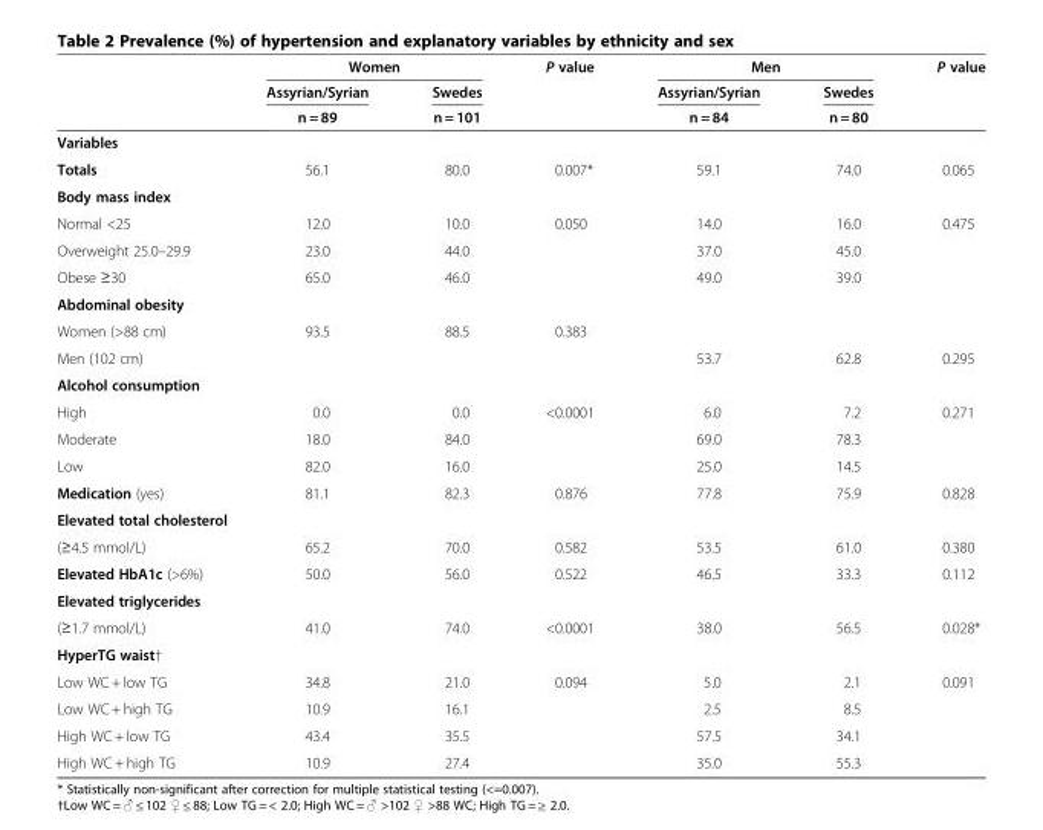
<table><thead><tr><td rowspan="3"></td><td colspan="2">Women</td><td rowspan="3">P value</td><td colspan="2">Men</td><td rowspan="3">P value</td></tr><tr><td rowspan="2">Assyrian/Syrian n = 89</td><td rowspan="2">Swedes n = 101</td><td rowspan="2">Assyrian/Syrian n = 84</td><td rowspan="2">Swedes n = 80</td></tr><tr></tr></thead><tbody><tr><td colspan="7">Variables</td></tr><tr><td>Totals</td><td>56.1</td><td>80.0</td><td>0.007*</td><td>59.1</td><td>74.0</td><td>0.065</td></tr><tr><td colspan="7">Body mass index</td></tr><tr><td>Normal &lt;25</td><td>12.0</td><td>10.0</td><td>0.050</td><td>14.0</td><td>16.0</td><td>0.475</td></tr><tr><td>Overweight 25.0–29.9</td><td>23.0</td><td>44.0</td><td></td><td>37.0</td><td>45.0</td><td></td></tr><tr><td>Obese ≥30</td><td>65.0</td><td>46.0</td><td></td><td>49.0</td><td>39.0</td><td></td></tr><tr><td colspan="7">Abdominal obesity</td></tr><tr><td>Women (&gt;88 cm)</td><td>93.5</td><td>88.5</td><td>0.383</td><td></td><td></td><td></td></tr><tr><td>Men (102 cm)</td><td></td><td></td><td></td><td>53.7</td><td>62.8</td><td>0.295</td></tr><tr><td colspan="7">Alcohol consumption</td></tr><tr><td>High</td><td>0.0</td><td>0.0</td><td>&lt;0.0001</td><td>6.0</td><td>7.2</td><td>0.271</td></tr><tr><td>Moderate</td><td>18.0</td><td>84.0</td><td></td><td>69.0</td><td>78.3</td><td></td></tr><tr><td>Low</td><td>82.0</td><td>16.0</td><td></td><td>25.0</td><td>14.5</td><td></td></tr><tr><td>Medication (yes)</td><td>81.1</td><td>82.3</td><td>0.876</td><td>77.8</td><td>75.9</td><td>0.828</td></tr><tr><td colspan="7">Elevated total cholesterol</td></tr><tr><td>(≥4.5 mmol/L)</td><td>65.2</td><td>70.0</td><td>0.582</td><td>53.5</td><td>61.0</td><td>0.380</td></tr><tr><td>Elevated HbA1c (&gt;6%)</td><td>50.0</td><td>56.0</td><td>0.522</td><td>46.5</td><td>33.3</td><td>0.112</td></tr><tr><td colspan="7">Elevated triglycerides</td></tr><tr><td>(≥1.7 mmol/L)</td><td>41.0</td><td>74.0</td><td>&lt;0.0001</td><td>38.0</td><td>56.5</td><td>0.028*</td></tr><tr><td colspan="7">HyperTG waist†</td></tr><tr><td>Low WC + low TG</td><td>34.8</td><td>21.0</td><td>0.094</td><td>5.0</td><td>2.1</td><td>0.091</td></tr><tr><td>Low WC + high TG</td><td>10.9</td><td>16.1</td><td></td><td>2.5</td><td>8.5</td><td></td></tr><tr><td>High WC + low TG</td><td>43.4</td><td>35.5</td><td></td><td>57.5</td><td>34.1</td><td></td></tr><tr><td>High WC + high TG</td><td>10.9</td><td>27.4</td><td></td><td>35.0</td><td>55.3</td><td></td></tr></tbody></table>